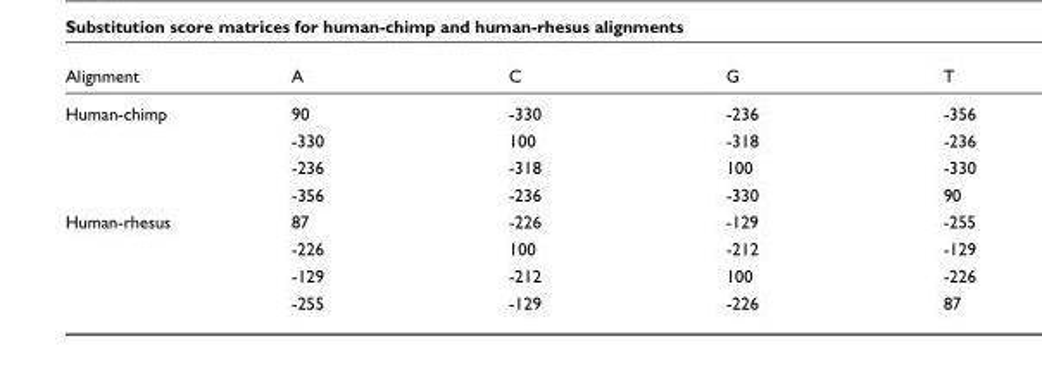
<table><thead><tr><td>Alignment</td><td>A</td><td>C</td><td>G</td><td>T</td></tr></thead><tbody><tr><td rowspan="4">Human-chimp</td><td>90</td><td>-330</td><td>-236</td><td>-356</td></tr><tr><td>-330</td><td>100</td><td>-318</td><td>-236</td></tr><tr><td>-236</td><td>-318</td><td>100</td><td>-330</td></tr><tr><td>-356</td><td>-236</td><td>-330</td><td>90</td></tr><tr><td rowspan="4">Human-rhesus</td><td>87</td><td>-226</td><td>-129</td><td>-255</td></tr><tr><td>-226</td><td>100</td><td>-212</td><td>-129</td></tr><tr><td>-129</td><td>-212</td><td>100</td><td>-226</td></tr><tr><td>-255</td><td>-129</td><td>-226</td><td>87</td></tr></tbody></table>